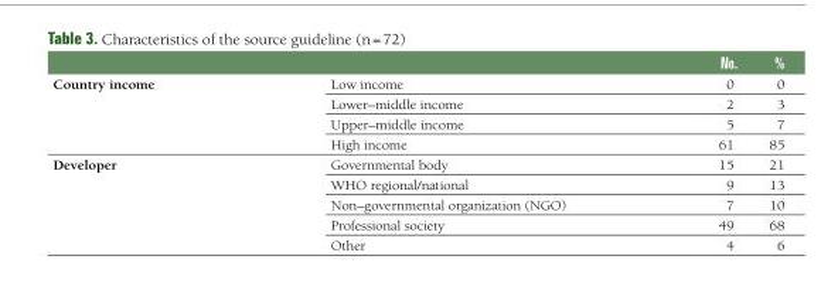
<table><thead><tr><td></td><td></td><td>No.</td><td>%</td></tr></thead><tbody><tr><td rowspan="4">Country income</td><td>Low income</td><td>0</td><td>0</td></tr><tr><td>Lower–middle income</td><td>2</td><td>3</td></tr><tr><td>Upper–middle income</td><td>5</td><td>7</td></tr><tr><td>High income</td><td>61</td><td>85</td></tr><tr><td rowspan="5">Developer</td><td>Governmental body</td><td>15</td><td>21</td></tr><tr><td>WHO regional/national</td><td>9</td><td>13</td></tr><tr><td>Non–governmental organization (NGO)</td><td>7</td><td>10</td></tr><tr><td>Professional society</td><td>49</td><td>68</td></tr><tr><td>Other</td><td>4</td><td>6</td></tr></tbody></table>